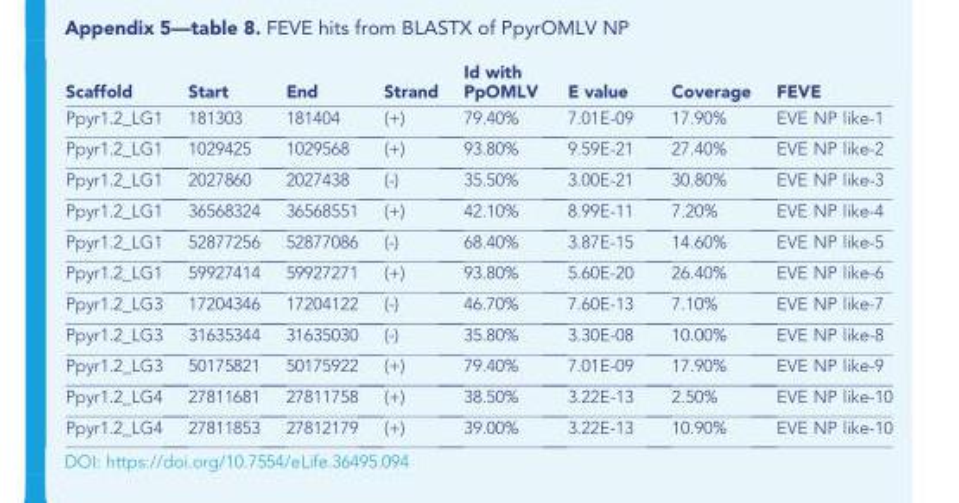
<table><thead><tr><td>Scaffold</td><td>Start</td><td>End</td><td>Strand</td><td>Id with PpOMLV</td><td>E value</td><td>Coverage</td><td>FEVE</td></tr></thead><tbody><tr><td>Ppyr1.2_LG1</td><td>181303</td><td>181404</td><td>(+)</td><td>79.40%</td><td>7.01E-09</td><td>17.90%</td><td>EVE NP like-1</td></tr><tr><td>Ppyr1.2_LG1</td><td>1029425</td><td>1029568</td><td>(+)</td><td>93.80%</td><td>9.59E-21</td><td>27.40%</td><td>EVE NP like-2</td></tr><tr><td>Ppyr1.2_LG1</td><td>2027860</td><td>2027438</td><td>(-)</td><td>35.50%</td><td>3.00E-21</td><td>30.80%</td><td>EVE NP like-3</td></tr><tr><td>Ppyr1.2_LG1</td><td>36568324</td><td>36568551</td><td>(+)</td><td>42.10%</td><td>8.99E-11</td><td>7.20%</td><td>EVE NP like-4</td></tr><tr><td>Ppyr1.2_LG1</td><td>52877256</td><td>52877086</td><td>(-)</td><td>68.40%</td><td>3.87E-15</td><td>14.60%</td><td>EVE NP like-5</td></tr><tr><td>Ppyr1.2_LG1</td><td>59927414</td><td>59927271</td><td>(+)</td><td>93.80%</td><td>5.60E-20</td><td>26.40%</td><td>EVE NP like-6</td></tr><tr><td>Ppyr1.2_LG3</td><td>17204346</td><td>17204122</td><td>(-)</td><td>46.70%</td><td>7.60E-13</td><td>7.10%</td><td>EVE NP like-7</td></tr><tr><td>Ppyr1.2_LG3</td><td>31635344</td><td>31635030</td><td>(-)</td><td>35.80%</td><td>3.30E-08</td><td>10.00%</td><td>EVE NP like-8</td></tr><tr><td>Ppyr1.2_LG3</td><td>50175821</td><td>50175922</td><td>(+)</td><td>79.40%</td><td>7.01E-09</td><td>17.90%</td><td>EVE NP like-9</td></tr><tr><td>Ppyr1.2_LG4</td><td>27811681</td><td>27811758</td><td>(+)</td><td>38.50%</td><td>3.22E-13</td><td>2.50%</td><td>EVE NP like-10</td></tr><tr><td>Ppyr1.2_LG4</td><td>27811853</td><td>27812179</td><td>(+)</td><td>39.00%</td><td>3.22E-13</td><td>10.90%</td><td>EVE NP like-10</td></tr></tbody></table>